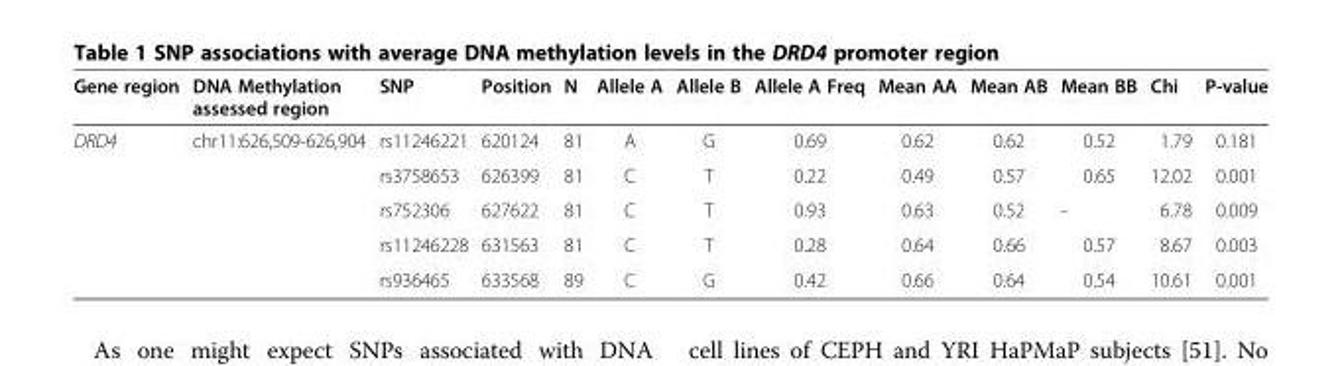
<table><thead><tr><td>Gene region</td><td>DNA Methylation assessed region</td><td>SNP</td><td>Position</td><td>N</td><td>Allele A</td><td>Allele B</td><td>Allele A Freq</td><td>Mean AA</td><td>Mean AB</td><td>Mean BB</td><td>Chi</td><td>P-value</td></tr></thead><tbody><tr><td rowspan="5">DRD4</td><td>chr11:626,509-626,904</td><td>rs11246221</td><td>620124</td><td>81</td><td>A</td><td>G</td><td>0.69</td><td>0.62</td><td>0.62</td><td>0.52</td><td>1.79</td><td>0.181</td></tr><tr><td></td><td>rs3758653</td><td>626399</td><td>81</td><td>C</td><td>T</td><td>0.22</td><td>0.49</td><td>0.57</td><td>0.65</td><td>12.02</td><td>0.001</td></tr><tr><td></td><td>rs752306</td><td>627622</td><td>81</td><td>C</td><td>T</td><td>0.93</td><td>0.63</td><td>0.52</td><td>-</td><td>6.78</td><td>0.009</td></tr><tr><td></td><td>rs11246228</td><td>631563</td><td>81</td><td>C</td><td>T</td><td>0.28</td><td>0.64</td><td>0.66</td><td>0.57</td><td>8.67</td><td>0.003</td></tr><tr><td></td><td>rs936465</td><td>633568</td><td>89</td><td>C</td><td>G</td><td>0.42</td><td>0.66</td><td>0.64</td><td>0.54</td><td>10.61</td><td>0.001</td></tr></tbody></table>